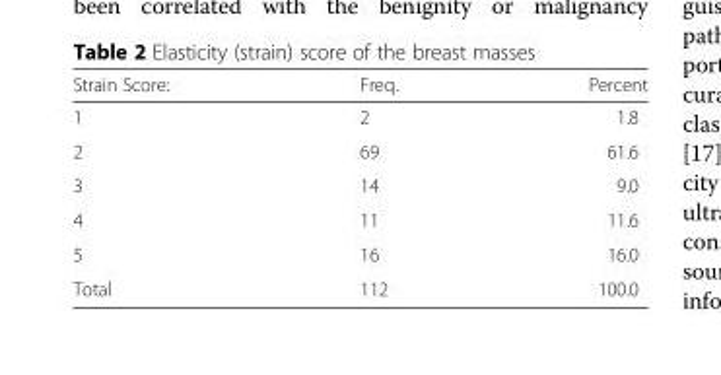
<table><thead><tr><td>Strain Score:</td><td>Freq.</td><td>Percent</td></tr></thead><tbody><tr><td>1</td><td>2</td><td>1.8</td></tr><tr><td>2</td><td>69</td><td>61.6</td></tr><tr><td>3</td><td>14</td><td>9.0</td></tr><tr><td>4</td><td>11</td><td>11.6</td></tr><tr><td>5</td><td>16</td><td>16.0</td></tr><tr><td>Total</td><td>112</td><td>100.0</td></tr></tbody></table>